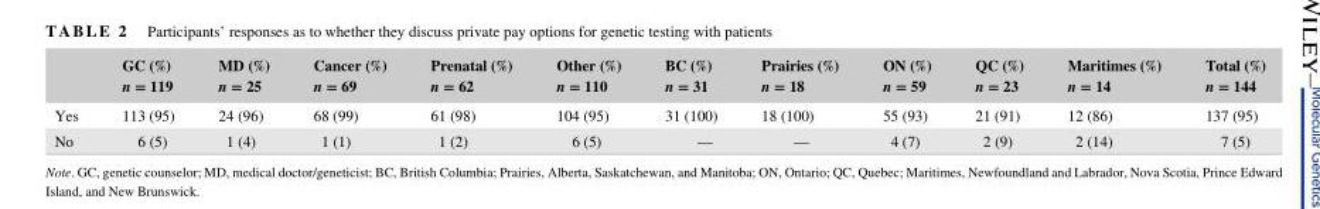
<table><thead><tr><td></td><td>GC (%) n = 119</td><td>MD (%) n = 25</td><td>Cancer (%) n = 69</td><td>Prenatal (%) n = 62</td><td>Other (%) n = 110</td><td>BC (%) n = 31</td><td>Prairies (%) n = 18</td><td>ON (%) n = 59</td><td>QC (%) n = 23</td><td>Maritimes (%) n = 14</td><td>Total (%) n = 144</td></tr></thead><tbody><tr><td>Yes</td><td>113 (95)</td><td>24 (96)</td><td>68 (99)</td><td>61 (98)</td><td>104 (95)</td><td>31 (100)</td><td>18 (100)</td><td>55 (93)</td><td>21 (91)</td><td>12 (86)</td><td>137 (95)</td></tr><tr><td>No</td><td>6 (5)</td><td>1 (4)</td><td>1 (1)</td><td>1 (2)</td><td>6 (5)</td><td>—</td><td>—</td><td>4 (7)</td><td>2 (9)</td><td>2 (14)</td><td>7 (5)</td></tr></tbody></table>